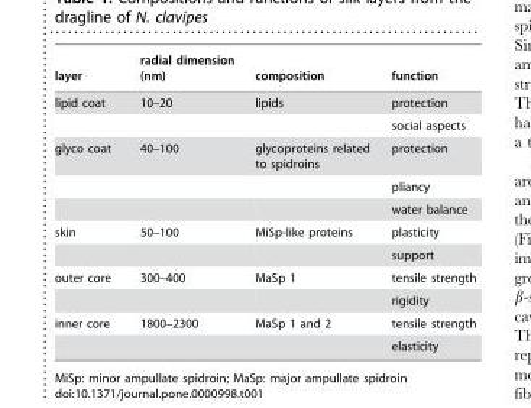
<table><thead><tr><td>layer</td><td>radial dimension (nm)</td><td>composition</td><td>function</td></tr></thead><tbody><tr><td rowspan="2">lipid coat</td><td>10–20</td><td>lipids</td><td>protection</td></tr><tr><td></td><td></td><td>social aspects</td></tr><tr><td rowspan="3">glyco coat</td><td>40–100</td><td>glycoproteins related to spidroins</td><td>protection</td></tr><tr><td></td><td></td><td>pliancy</td></tr><tr><td></td><td></td><td>water balance</td></tr><tr><td rowspan="2">skin</td><td>50–100</td><td>MiSp-like proteins</td><td>plasticity</td></tr><tr><td></td><td></td><td>support</td></tr><tr><td rowspan="2">outer core</td><td>300–400</td><td>MaSp 1</td><td>tensile strength</td></tr><tr><td></td><td></td><td>rigidity</td></tr><tr><td rowspan="2">inner core</td><td>1800–2300</td><td>MaSp 1 and 2</td><td>tensile strength</td></tr><tr><td></td><td></td><td>elasticity</td></tr></tbody></table>